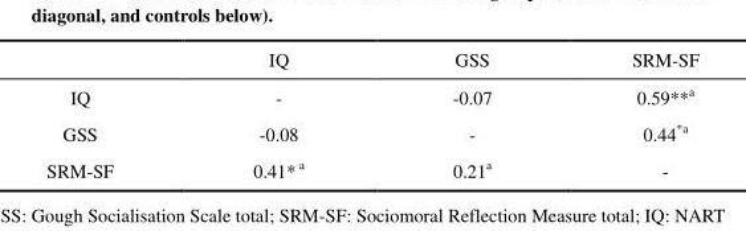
<table><thead><tr><td></td><td>IQ</td><td>GSS</td><td>SRM-SF</td></tr></thead><tbody><tr><td>IQ</td><td>-</td><td>-0.07</td><td>0.59**<sup>a</sup></td></tr><tr><td>GSS</td><td>-0.08</td><td>-</td><td>0.44<sup>*a</sup></td></tr><tr><td>SRM-SF</td><td>0.41* <sup>a</sup></td><td>0.21<sup>a</sup></td><td>-</td></tr></tbody></table>